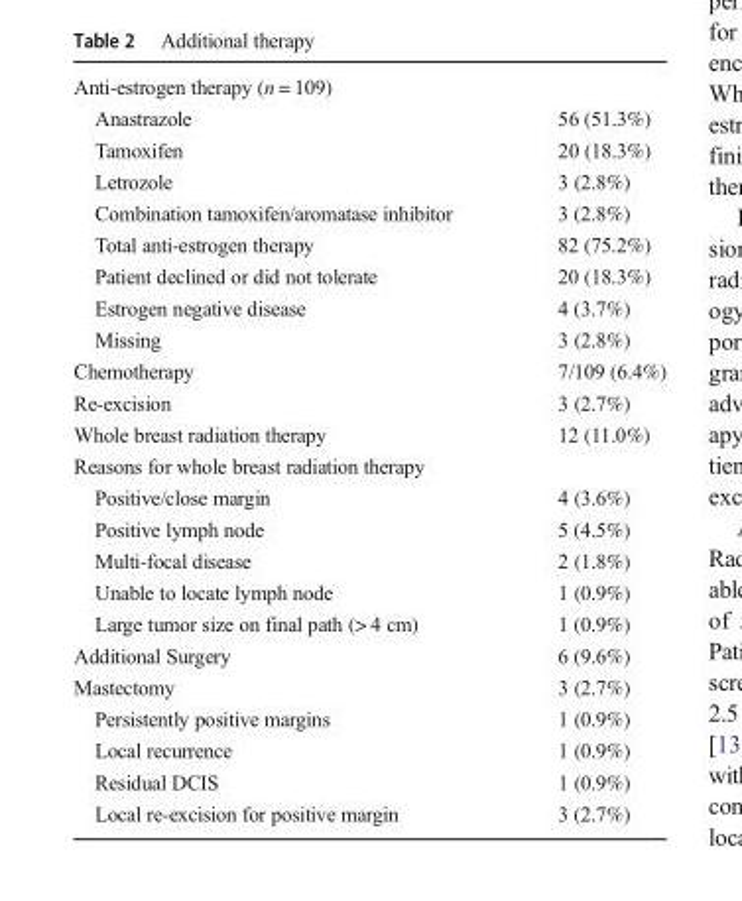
<table><tbody><tr><td colspan="2">Anti-estrogen therapy (n = 109)</td></tr><tr><td>Anastrazole</td><td>56 (51.3%)</td></tr><tr><td>Tamoxifen</td><td>20 (18.3%)</td></tr><tr><td>Letrozole</td><td>3 (2.8%)</td></tr><tr><td>Combination tamoxifen/aromatase inhibitor</td><td>3 (2.8%)</td></tr><tr><td>Total anti-estrogen therapy</td><td>82 (75.2%)</td></tr><tr><td>Patient declined or did not tolerate</td><td>20 (18.3%)</td></tr><tr><td>Estrogen negative disease</td><td>4 (3.7%)</td></tr><tr><td>Missing</td><td>3 (2.8%)</td></tr><tr><td>Chemotherapy</td><td>7/109 (6.4%)</td></tr><tr><td>Re-excision</td><td>3 (2.7%)</td></tr><tr><td>Whole breast radiation therapy</td><td>12 (11.0%)</td></tr><tr><td colspan="2">Reasons for whole breast radiation therapy</td></tr><tr><td>Positive/close margin</td><td>4 (3.6%)</td></tr><tr><td>Positive lymph node</td><td>5 (4.5%)</td></tr><tr><td>Multi-focal disease</td><td>2 (1.8%)</td></tr><tr><td>Unable to locate lymph node</td><td>1 (0.9%)</td></tr><tr><td>Large tumor size on final path (&gt; 4 cm)</td><td>1 (0.9%)</td></tr><tr><td>Additional Surgery</td><td>6 (9.6%)</td></tr><tr><td>Mastectomy</td><td>3 (2.7%)</td></tr><tr><td>Persistently positive margins</td><td>1 (0.9%)</td></tr><tr><td>Local recurrence</td><td>1 (0.9%)</td></tr><tr><td>Residual DCIS</td><td>1 (0.9%)</td></tr><tr><td>Local re-excision for positive margin</td><td>3 (2.7%)</td></tr></tbody></table>